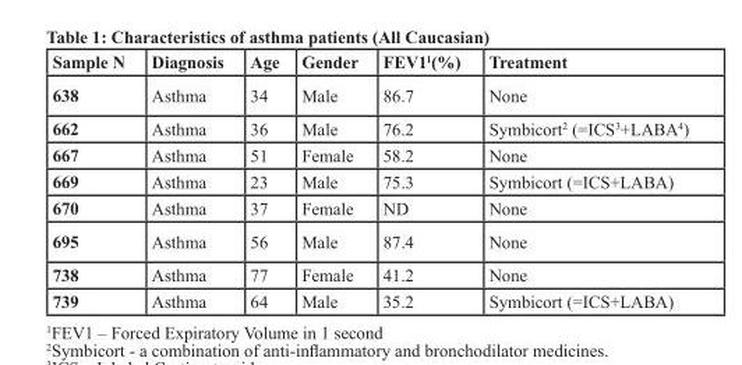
<table><thead><tr><td>Sample N</td><td>Diagnosis</td><td>Age</td><td>Gender</td><td>FEV1<sup>1</sup>(%)</td><td>Treatment</td></tr></thead><tbody><tr><td>638</td><td>Asthma</td><td>34</td><td>Male</td><td>86.7</td><td>None</td></tr><tr><td>662</td><td>Asthma</td><td>36</td><td>Male</td><td>76.2</td><td>Symbicort<sup>2</sup> (=ICS<sup>3</sup>+LABA<sup>4</sup>)</td></tr><tr><td>667</td><td>Asthma</td><td>51</td><td>Female</td><td>58.2</td><td>None</td></tr><tr><td>669</td><td>Asthma</td><td>23</td><td>Male</td><td>75.3</td><td>Symbicort (=ICS+LABA)</td></tr><tr><td>670</td><td>Asthma</td><td>37</td><td>Female</td><td>ND</td><td>None</td></tr><tr><td>695</td><td>Asthma</td><td>56</td><td>Male</td><td>87.4</td><td>None</td></tr><tr><td>738</td><td>Asthma</td><td>77</td><td>Female</td><td>41.2</td><td>None</td></tr><tr><td>739</td><td>Asthma</td><td>64</td><td>Male</td><td>35.2</td><td>Symbicort (=ICS+LABA)</td></tr></tbody></table>